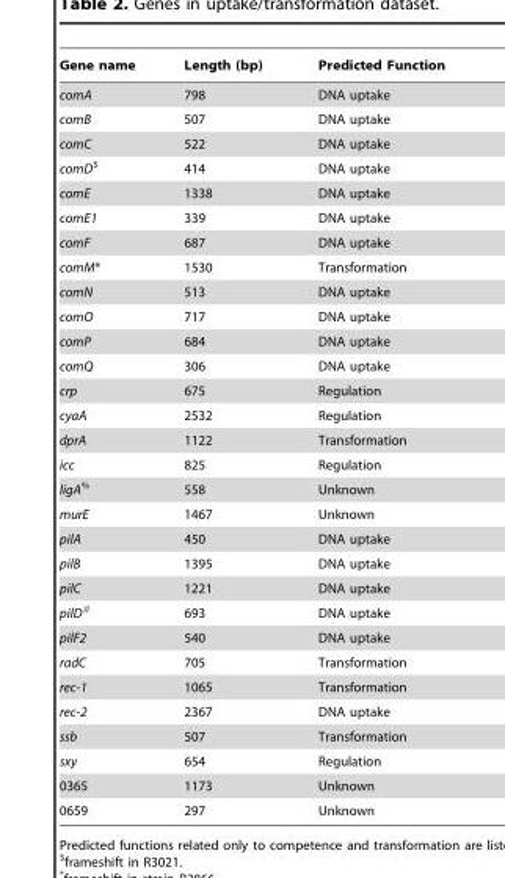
<table><thead><tr><td>Gene name</td><td>Length (bp)</td><td>Predicted Function</td></tr></thead><tbody><tr><td>comA</td><td>798</td><td>DNA uptake</td></tr><tr><td>comB</td><td>507</td><td>DNA uptake</td></tr><tr><td>comC</td><td>522</td><td>DNA uptake</td></tr><tr><td>comD$</td><td>414</td><td>DNA uptake</td></tr><tr><td>comE</td><td>1338</td><td>DNA uptake</td></tr><tr><td>comE1</td><td>339</td><td>DNA uptake</td></tr><tr><td>comF</td><td>687</td><td>DNA uptake</td></tr><tr><td>comM*</td><td>1530</td><td>Transformation</td></tr><tr><td>comN</td><td>513</td><td>DNA uptake</td></tr><tr><td>comO</td><td>717</td><td>DNA uptake</td></tr><tr><td>comP</td><td>684</td><td>DNA uptake</td></tr><tr><td>comQ</td><td>306</td><td>DNA uptake</td></tr><tr><td>crp</td><td>675</td><td>Regulation</td></tr><tr><td>cyaA</td><td>2532</td><td>Regulation</td></tr><tr><td>dprA</td><td>1122</td><td>Transformation</td></tr><tr><td>icc</td><td>825</td><td>Regulation</td></tr><tr><td>ligA%</td><td>558</td><td>Unknown</td></tr><tr><td>murE</td><td>1467</td><td>Unknown</td></tr><tr><td>pilA</td><td>450</td><td>DNA uptake</td></tr><tr><td>pilB</td><td>1395</td><td>DNA uptake</td></tr><tr><td>pilC</td><td>1221</td><td>DNA uptake</td></tr><tr><td>pilD#</td><td>693</td><td>DNA uptake</td></tr><tr><td>pilF2</td><td>540</td><td>DNA uptake</td></tr><tr><td>radC</td><td>705</td><td>Transformation</td></tr><tr><td>rec-1</td><td>1065</td><td>Transformation</td></tr><tr><td>rec-2</td><td>2367</td><td>DNA uptake</td></tr><tr><td>ssb</td><td>507</td><td>Transformation</td></tr><tr><td>sxy</td><td>654</td><td>Regulation</td></tr><tr><td>0365</td><td>1173</td><td>Unknown</td></tr><tr><td>0659</td><td>297</td><td>Unknown</td></tr></tbody></table>